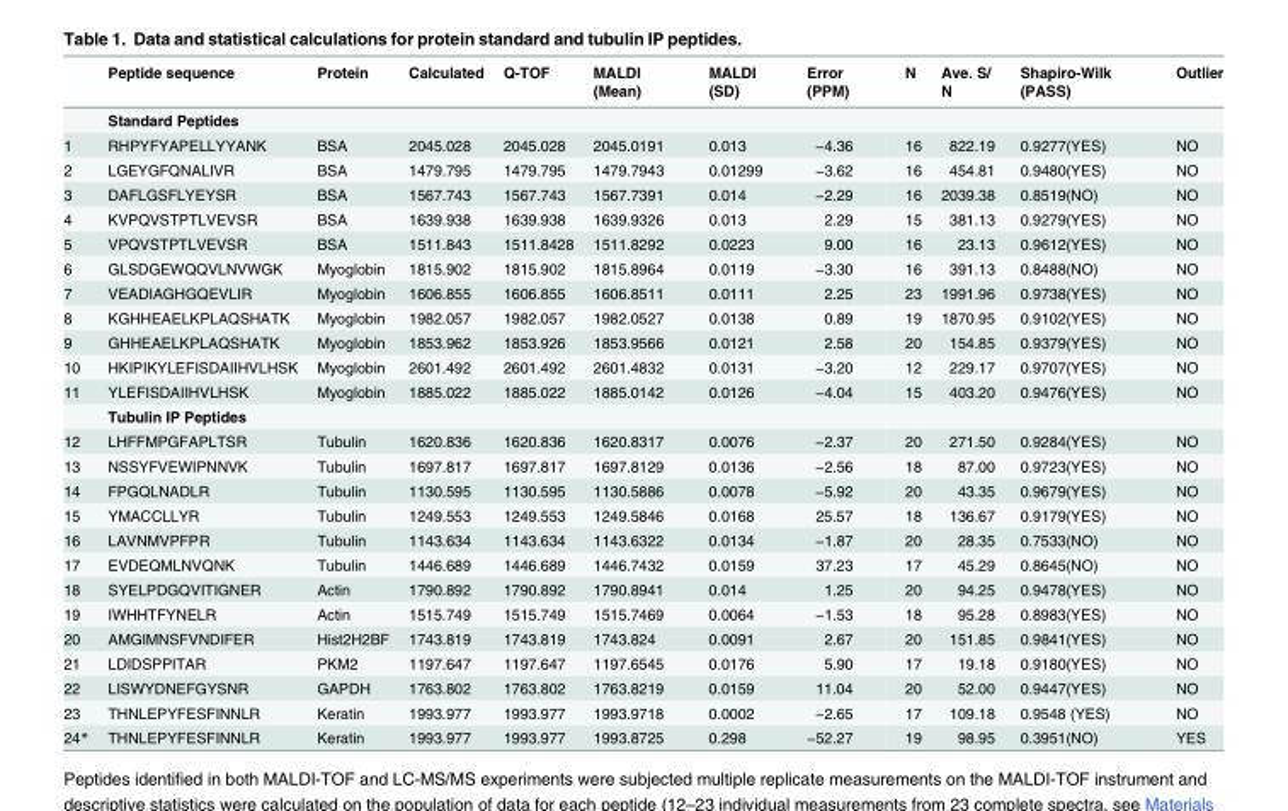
<table><thead><tr><td></td><td>Peptide sequence</td><td>Protein</td><td>Calculated</td><td>Q-TOF</td><td>MALDI (Mean)</td><td>MALDI (SD)</td><td>Error (PPM)</td><td>N</td><td>Ave. S/ N</td><td>Shapiro-Wilk (PASS)</td><td>Outlier</td></tr></thead><tbody><tr><td></td><td>Standard Peptides</td><td></td><td></td><td></td><td></td><td></td><td></td><td></td><td></td><td></td><td></td></tr><tr><td>1</td><td>RHPYFYAPELLYYANK</td><td>BSA</td><td>2045.028</td><td>2045.028</td><td>2045.0191</td><td>0.013</td><td>−4.36</td><td>16</td><td>822.19</td><td>0.9277(YES)</td><td>NO</td></tr><tr><td>2</td><td>LGEYGFQNALIVR</td><td>BSA</td><td>1479.795</td><td>1479.795</td><td>1479.7943</td><td>0.01299</td><td>−3.62</td><td>16</td><td>454.81</td><td>0.9480(YES)</td><td>NO</td></tr><tr><td>3</td><td>DAFLGSFLYEYSR</td><td>BSA</td><td>1567.743</td><td>1567.743</td><td>1567.7391</td><td>0.014</td><td>−2.29</td><td>16</td><td>2039.38</td><td>0.8519(NO)</td><td>NO</td></tr><tr><td>4</td><td>KVPQVSTPTLVEVSR</td><td>BSA</td><td>1639.938</td><td>1639.938</td><td>1639.9326</td><td>0.013</td><td>2.29</td><td>15</td><td>381.13</td><td>0.9279(YES)</td><td>NO</td></tr><tr><td>5</td><td>VPQVSTPTLVEVSR</td><td>BSA</td><td>1511.843</td><td>1511.8428</td><td>1511.8292</td><td>0.0223</td><td>9.00</td><td>16</td><td>23.13</td><td>0.9612(YES)</td><td>NO</td></tr><tr><td>6</td><td>GLSDGEWQQVLNVWGK</td><td>Myoglobin</td><td>1815.902</td><td>1815.902</td><td>1815.8964</td><td>0.0119</td><td>−3.30</td><td>16</td><td>391.13</td><td>0.8488(NO)</td><td>NO</td></tr><tr><td>7</td><td>VEADIAGHGQEVLIR</td><td>Myoglobin</td><td>1606.855</td><td>1606.855</td><td>1606.8511</td><td>0.0111</td><td>2.25</td><td>23</td><td>1991.96</td><td>0.9738(YES)</td><td>NO</td></tr><tr><td>8</td><td>KGHHEAELKPLAQSHATK</td><td>Myoglobin</td><td>1982.057</td><td>1982.057</td><td>1982.0527</td><td>0.0138</td><td>0.89</td><td>19</td><td>1870.95</td><td>0.9102(YES)</td><td>NO</td></tr><tr><td>9</td><td>GHHEAELKPLAQSHATK</td><td>Myoglobin</td><td>1853.962</td><td>1853.926</td><td>1853.9566</td><td>0.0121</td><td>2.58</td><td>20</td><td>154.85</td><td>0.9379(YES)</td><td>NO</td></tr><tr><td>10</td><td>HKIPIKYLEFISDAIIHVLHSK</td><td>Myoglobin</td><td>2601.492</td><td>2601.492</td><td>2601.4832</td><td>0.0131</td><td>−3.20</td><td>12</td><td>229.17</td><td>0.9707(YES)</td><td>NO</td></tr><tr><td rowspan="2">11</td><td>YLEFISDAIIHVLHSK</td><td>Myoglobin</td><td>1885.022</td><td>1885.022</td><td>1885.0142</td><td>0.0126</td><td>−4.04</td><td>15</td><td>403.20</td><td>0.9476(YES)</td><td>NO</td></tr><tr><td>Tubulin IP Peptides</td><td></td><td></td><td></td><td></td><td></td><td></td><td></td><td></td><td></td><td></td></tr><tr><td>12</td><td>LHFFMPGFAPLTSR</td><td>Tubulin</td><td>1620.836</td><td>1620.836</td><td>1620.8317</td><td>0.0076</td><td>−2.37</td><td>20</td><td>271.50</td><td>0.9284(YES)</td><td>NO</td></tr><tr><td>13</td><td>NSSYFVEWIPNNVK</td><td>Tubulin</td><td>1697.817</td><td>1697.817</td><td>1697.8129</td><td>0.0136</td><td>−2.56</td><td>18</td><td>87.00</td><td>0.9723(YES)</td><td>NO</td></tr><tr><td>14</td><td>FPGQLNADLR</td><td>Tubulin</td><td>1130.595</td><td>1130.595</td><td>1130.5886</td><td>0.0078</td><td>−5.92</td><td>20</td><td>43.35</td><td>0.9679(YES)</td><td>NO</td></tr><tr><td>15</td><td>YMACCLLYR</td><td>Tubulin</td><td>1249.553</td><td>1249.553</td><td>1249.5846</td><td>0.0168</td><td>25.57</td><td>18</td><td>136.67</td><td>0.9179(YES)</td><td>NO</td></tr><tr><td>16</td><td>LAVNMVPFPR</td><td>Tubulin</td><td>1143.634</td><td>1143.634</td><td>1143.6322</td><td>0.0134</td><td>−1.87</td><td>20</td><td>28.35</td><td>0.7533(NO)</td><td>NO</td></tr><tr><td>17</td><td>EVDEQMLNVQNK</td><td>Tubulin</td><td>1446.689</td><td>1446.689</td><td>1446.7432</td><td>0.0159</td><td>37.23</td><td>17</td><td>45.29</td><td>0.8645(NO)</td><td>NO</td></tr><tr><td>18</td><td>SYELPDGQVITIGNER</td><td>Actin</td><td>1790.892</td><td>1790.892</td><td>1790.8941</td><td>0.014</td><td>1.25</td><td>20</td><td>94.25</td><td>0.9478(YES)</td><td>NO</td></tr><tr><td>19</td><td>IWHHTFYNELR</td><td>Actin</td><td>1515.749</td><td>1515.749</td><td>1515.7469</td><td>0.0064</td><td>−1.53</td><td>18</td><td>95.28</td><td>0.8983(YES)</td><td>NO</td></tr><tr><td>20</td><td>AMGIMNSFVNDIFER</td><td>Hist2H2BF</td><td>1743.819</td><td>1743.819</td><td>1743.824</td><td>0.0091</td><td>2.67</td><td>20</td><td>151.85</td><td>0.9841(YES)</td><td>NO</td></tr><tr><td>21</td><td>LDIDSPPITAR</td><td>PKM2</td><td>1197.647</td><td>1197.647</td><td>1197.6545</td><td>0.0176</td><td>5.90</td><td>17</td><td>19.18</td><td>0.9180(YES)</td><td>NO</td></tr><tr><td>22</td><td>LISWYDNEFGYSNR</td><td>GAPDH</td><td>1763.802</td><td>1763.802</td><td>1763.8219</td><td>0.0159</td><td>11.04</td><td>20</td><td>52.00</td><td>0.9447(YES)</td><td>NO</td></tr><tr><td>23</td><td>THNLEPYFESFINNLR</td><td>Keratin</td><td>1993.977</td><td>1993.977</td><td>1993.9718</td><td>0.0002</td><td>−2.65</td><td>17</td><td>109.18</td><td>0.9548 (YES)</td><td>NO</td></tr><tr><td>24*</td><td>THNLEPYFESFINNLR</td><td>Keratin</td><td>1993.977</td><td>1993.977</td><td>1993.8725</td><td>0.298</td><td>−52.27</td><td>19</td><td>98.95</td><td>0.3951(NO)</td><td>YES</td></tr></tbody></table>